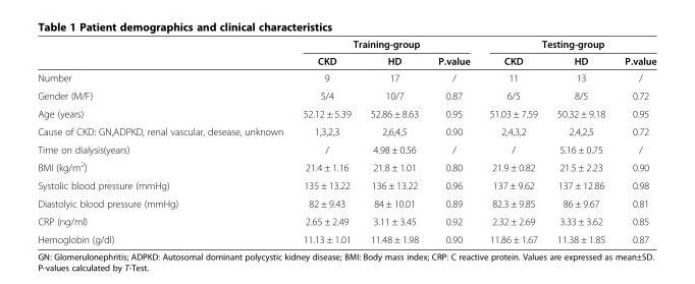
<table><thead><tr><td rowspan="2"></td><td colspan="3">Training-group</td><td colspan="3">Testing-group</td></tr><tr><td>CKD</td><td>HD</td><td>P.value</td><td>CKD</td><td>HD</td><td>P.value</td></tr></thead><tbody><tr><td>Number</td><td>9</td><td>17</td><td>/</td><td>11</td><td>13</td><td>/</td></tr><tr><td>Gender (M/F)</td><td>5/4</td><td>10/7</td><td>0.87</td><td>6/5</td><td>8/5</td><td>0.72</td></tr><tr><td>Age (years)</td><td>52.12 ± 5.39</td><td>52.86 ± 8.63</td><td>0.95</td><td>51.03 ± 7.59</td><td>50.32 ± 9.18</td><td>0.95</td></tr><tr><td>Cause of CKD: GN,ADPKD, renal vascular, desease, unknown</td><td>1,3,2,3</td><td>2,6,4,5</td><td>0.90</td><td>2,4,3,2</td><td>2,4,2,5</td><td>0.72</td></tr><tr><td>Time on dialysis(years)</td><td>/</td><td>4.98 ± 0.56</td><td>/</td><td>/</td><td>5.16 ± 0.75</td><td>/</td></tr><tr><td>BMI (kg/m<sup>2</sup>)</td><td>21.4 ± 1.16</td><td>21.8 ± 1.01</td><td>0.80</td><td>21.9 ± 0.82</td><td>21.5 ± 2.23</td><td>0.90</td></tr><tr><td>Systolic blood pressure (mmHg)</td><td>135 ± 13.22</td><td>136 ± 13.22</td><td>0.96</td><td>137 ± 9.62</td><td>137 ± 12.86</td><td>0.98</td></tr><tr><td>Diastolyic blood pressure (mmHg)</td><td>82 ± 9.43</td><td>84 ± 10.01</td><td>0.89</td><td>82.3 ± 9.85</td><td>86 ± 9.67</td><td>0.81</td></tr><tr><td>CRP (ng/ml)</td><td>2.65 ± 2.49</td><td>3.11 ± 3.45</td><td>0.92</td><td>2.32 ± 2.69</td><td>3.33 ± 3.62</td><td>0.85</td></tr><tr><td>Hemoglobin (g/dl)</td><td>11.13 ± 1.01</td><td>11.48 ± 1.98</td><td>0.90</td><td>11.86 ± 1.67</td><td>11.38 ± 1.85</td><td>0.87</td></tr></tbody></table>